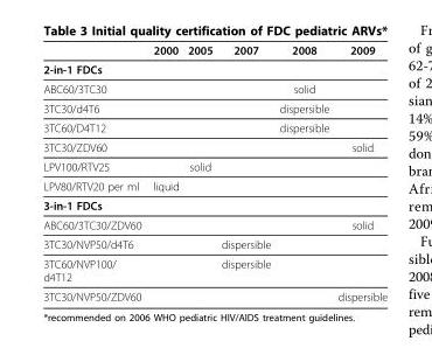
<table><thead><tr><td></td><td>2000</td><td>2005</td><td>2007</td><td>2008</td><td>2009</td></tr></thead><tbody><tr><td colspan="6">2-in-1 FDCs</td></tr><tr><td>ABC60/3TC30</td><td></td><td></td><td></td><td>solid</td><td></td></tr><tr><td>3TC30/d4T6</td><td></td><td></td><td></td><td>dispersible</td><td></td></tr><tr><td>3TC60/D4T12</td><td></td><td></td><td></td><td>dispersible</td><td></td></tr><tr><td>3TC30/ZDV60</td><td></td><td></td><td></td><td></td><td>solid</td></tr><tr><td>LPV100/RTV25</td><td></td><td>solid</td><td></td><td></td><td></td></tr><tr><td>LPV80/RTV20 per ml</td><td>liquid</td><td></td><td></td><td></td><td></td></tr><tr><td colspan="6">3-in-1 FDCs</td></tr><tr><td>ABC60/3TC30/ZDV60</td><td></td><td></td><td></td><td></td><td>solid</td></tr><tr><td>3TC30/NVP50/d4T6</td><td></td><td></td><td>dispersible</td><td></td><td></td></tr><tr><td>3TC60/NVP100/ d4T12</td><td></td><td></td><td>dispersible</td><td></td><td></td></tr><tr><td>3TC30/NVP50/ZDV60</td><td></td><td></td><td></td><td></td><td>dispersible</td></tr></tbody></table>